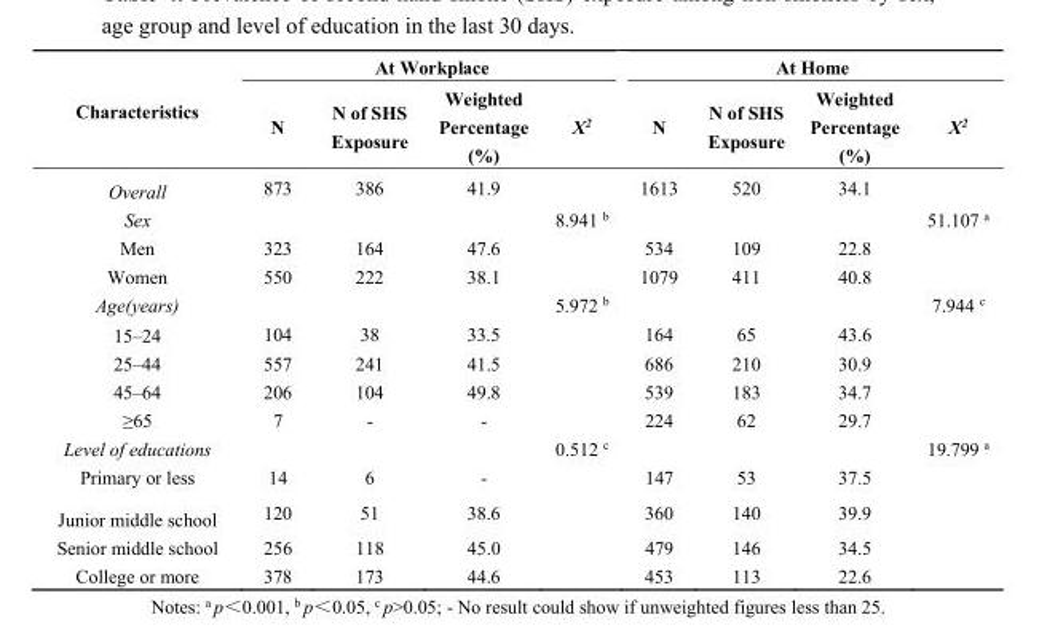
<table><thead><tr><td rowspan="2">Characteristics</td><td colspan="4">At Workplace</td><td colspan="4">At Home</td></tr><tr><td>N</td><td>N of SHS Exposure</td><td>Weighted Percentage (%)</td><td>Χ<sup>2</sup></td><td>N</td><td>N of SHS Exposure</td><td>Weighted Percentage (%)</td><td>Χ<sup>2</sup></td></tr></thead><tbody><tr><td>Overall</td><td>873</td><td>386</td><td>41.9</td><td></td><td>1613</td><td>520</td><td>34.1</td><td></td></tr><tr><td>Sex</td><td></td><td></td><td></td><td>8.941 <sup>b</sup></td><td></td><td></td><td></td><td>51.107 <sup>a</sup></td></tr><tr><td>Men</td><td>323</td><td>164</td><td>47.6</td><td></td><td>534</td><td>109</td><td>22.8</td><td></td></tr><tr><td>Women</td><td>550</td><td>222</td><td>38.1</td><td></td><td>1079</td><td>411</td><td>40.8</td><td></td></tr><tr><td>Age(years)</td><td></td><td></td><td></td><td>5.972 <sup>b</sup></td><td></td><td></td><td></td><td>7.944 <sup>c</sup></td></tr><tr><td>15–24</td><td>104</td><td>38</td><td>33.5</td><td></td><td>164</td><td>65</td><td>43.6</td><td></td></tr><tr><td>25–44</td><td>557</td><td>241</td><td>41.5</td><td></td><td>686</td><td>210</td><td>30.9</td><td></td></tr><tr><td>45–64</td><td>206</td><td>104</td><td>49.8</td><td></td><td>539</td><td>183</td><td>34.7</td><td></td></tr><tr><td>≥65</td><td>7</td><td>-</td><td>-</td><td></td><td>224</td><td>62</td><td>29.7</td><td></td></tr><tr><td>Level of educations</td><td></td><td></td><td></td><td>0.512 <sup>c</sup></td><td></td><td></td><td></td><td>19.799 <sup>a</sup></td></tr><tr><td>Primary or less</td><td>14</td><td>6</td><td>-</td><td></td><td>147</td><td>53</td><td>37.5</td><td></td></tr><tr><td>Junior middle school</td><td>120</td><td>51</td><td>38.6</td><td></td><td>360</td><td>140</td><td>39.9</td><td></td></tr><tr><td>Senior middle school</td><td>256</td><td>118</td><td>45.0</td><td></td><td>479</td><td>146</td><td>34.5</td><td></td></tr><tr><td>College or more</td><td>378</td><td>173</td><td>44.6</td><td></td><td>453</td><td>113</td><td>22.6</td><td></td></tr></tbody></table>